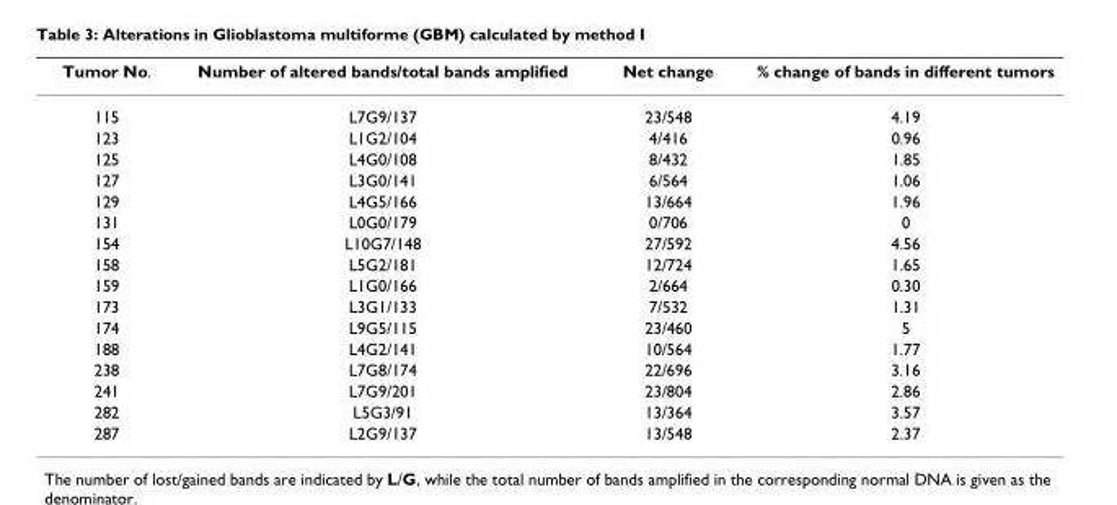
<table><thead><tr><td>Tumor No.</td><td>Number of altered bands/total bands amplified</td><td>Net change</td><td>% change of bands in different tumors</td></tr></thead><tbody><tr><td>115</td><td>L7G9/137</td><td>23/548</td><td>4.19</td></tr><tr><td>123</td><td>L1G2/104</td><td>4/416</td><td>0.96</td></tr><tr><td>125</td><td>L4G0/108</td><td>8/432</td><td>1.85</td></tr><tr><td>127</td><td>L3G0/141</td><td>6/564</td><td>1.06</td></tr><tr><td>129</td><td>L4G5/166</td><td>13/664</td><td>1.96</td></tr><tr><td>131</td><td>L0G0/179</td><td>0/706</td><td>0</td></tr><tr><td>154</td><td>L10G7/148</td><td>27/592</td><td>4.56</td></tr><tr><td>158</td><td>L5G2/181</td><td>12/724</td><td>1.65</td></tr><tr><td>159</td><td>L1G0/166</td><td>2/664</td><td>0.30</td></tr><tr><td>173</td><td>L3G1/133</td><td>7/532</td><td>1.31</td></tr><tr><td>174</td><td>L9G5/115</td><td>23/460</td><td>5</td></tr><tr><td>188</td><td>L4G2/141</td><td>10/564</td><td>1.77</td></tr><tr><td>238</td><td>L7G8/174</td><td>22/696</td><td>3.16</td></tr><tr><td>241</td><td>L7G9/201</td><td>23/804</td><td>2.86</td></tr><tr><td>282</td><td>L5G3/91</td><td>13/364</td><td>3.57</td></tr><tr><td>287</td><td>L2G9/137</td><td>13/548</td><td>2.37</td></tr></tbody></table>